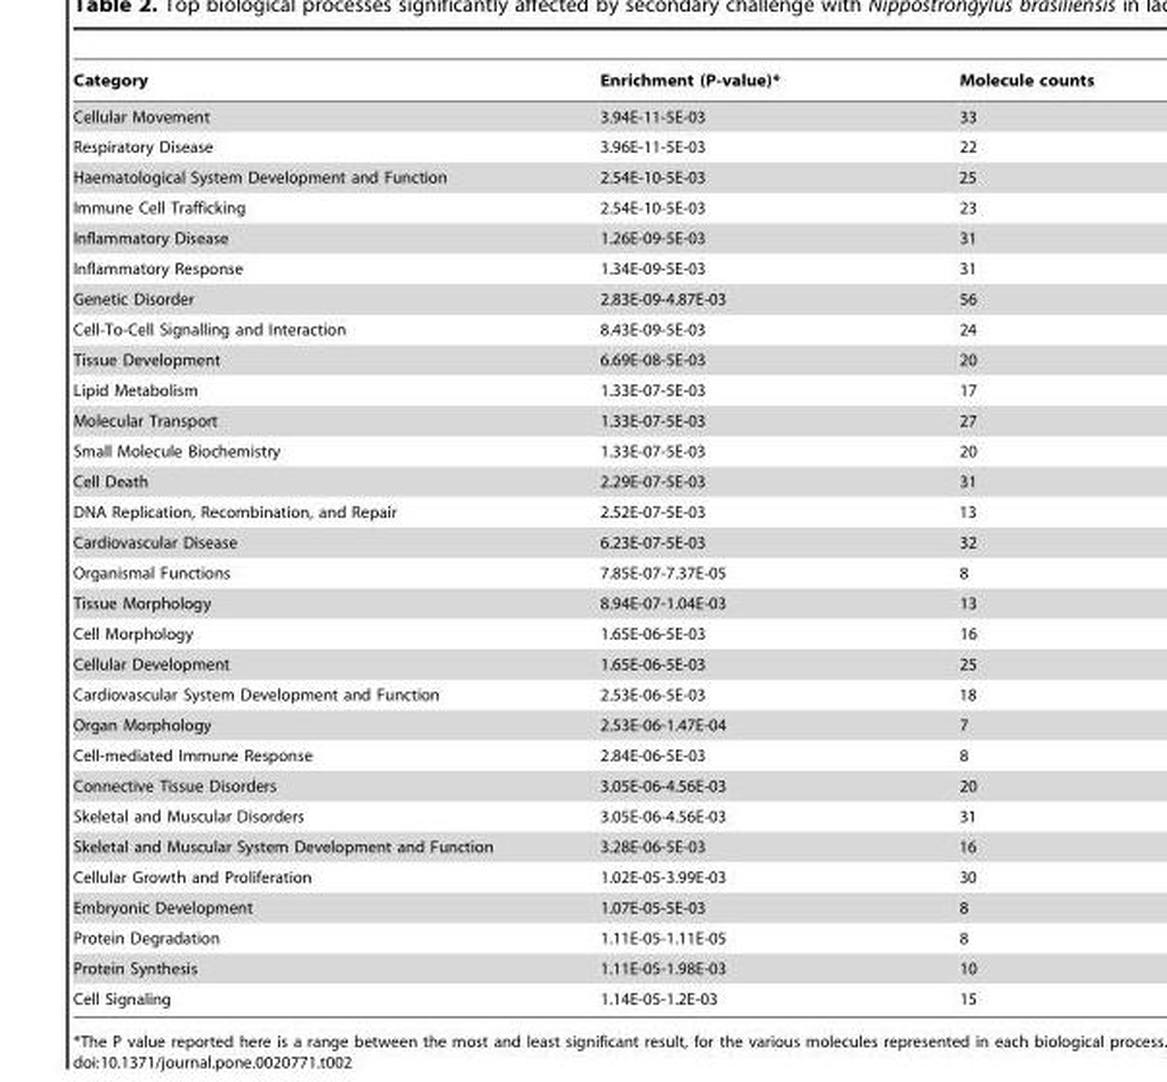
<table><thead><tr><td>Category</td><td>Enrichment (P-value)*</td><td>Molecule counts</td></tr></thead><tbody><tr><td>Cellular Movement</td><td>3.94E-11-5E-03</td><td>33</td></tr><tr><td>Respiratory Disease</td><td>3.96E-11-5E-03</td><td>22</td></tr><tr><td>Haematological System Development and Function</td><td>2.54E-10-5E-03</td><td>25</td></tr><tr><td>Immune Cell Trafficking</td><td>2.54E-10-5E-03</td><td>23</td></tr><tr><td>Inflammatory Disease</td><td>1.26E-09-5E-03</td><td>31</td></tr><tr><td>Inflammatory Response</td><td>1.34E-09-5E-03</td><td>31</td></tr><tr><td>Genetic Disorder</td><td>2.83E-09-4.87E-03</td><td>56</td></tr><tr><td>Cell-To-Cell Signalling and Interaction</td><td>8.43E-09-5E-03</td><td>24</td></tr><tr><td>Tissue Development</td><td>6.69E-08-5E-03</td><td>20</td></tr><tr><td>Lipid Metabolism</td><td>1.33E-07-5E-03</td><td>17</td></tr><tr><td>Molecular Transport</td><td>1.33E-07-5E-03</td><td>27</td></tr><tr><td>Small Molecule Biochemistry</td><td>1.33E-07-5E-03</td><td>20</td></tr><tr><td>Cell Death</td><td>2.29E-07-5E-03</td><td>31</td></tr><tr><td>DNA Replication, Recombination, and Repair</td><td>2.52E-07-5E-03</td><td>13</td></tr><tr><td>Cardiovascular Disease</td><td>6.23E-07-5E-03</td><td>32</td></tr><tr><td>Organismal Functions</td><td>7.85E-07-7.37E-05</td><td>8</td></tr><tr><td>Tissue Morphology</td><td>8.94E-07-1.04E-03</td><td>13</td></tr><tr><td>Cell Morphology</td><td>1.65E-06-5E-03</td><td>16</td></tr><tr><td>Cellular Development</td><td>1.65E-06-5E-03</td><td>25</td></tr><tr><td>Cardiovascular System Development and Function</td><td>2.53E-06-5E-03</td><td>18</td></tr><tr><td>Organ Morphology</td><td>2.53E-06-1.47E-04</td><td>7</td></tr><tr><td>Cell-mediated Immune Response</td><td>2.84E-06-5E-03</td><td>8</td></tr><tr><td>Connective Tissue Disorders</td><td>3.05E-06-4.56E-03</td><td>20</td></tr><tr><td>Skeletal and Muscular Disorders</td><td>3.05E-06-4.56E-03</td><td>31</td></tr><tr><td>Skeletal and Muscular System Development and Function</td><td>3.28E-06-5E-03</td><td>16</td></tr><tr><td>Cellular Growth and Proliferation</td><td>1.02E-05-3.99E-03</td><td>30</td></tr><tr><td>Embryonic Development</td><td>1.07E-05-5E-03</td><td>8</td></tr><tr><td>Protein Degradation</td><td>1.11E-05-1.11E-05</td><td>8</td></tr><tr><td>Protein Synthesis</td><td>1.11E-05-1.98E-03</td><td>10</td></tr><tr><td>Cell Signaling</td><td>1.14E-05-1.2E-03</td><td>15</td></tr></tbody></table>